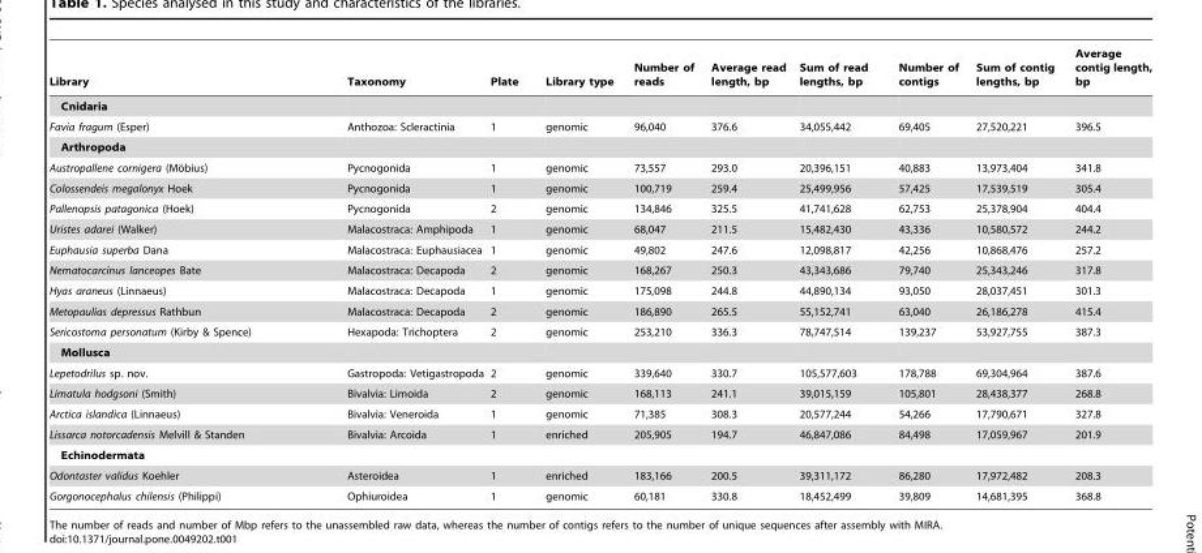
<table><thead><tr><td>Library</td><td>Taxonomy</td><td>Plate</td><td>Library type</td><td>Number of reads</td><td>Average read length, bp</td><td>Sum of read lengths, bp</td><td>Number of contigs</td><td>Sum of contig lengths, bp</td><td>Average contig length, bp</td></tr></thead><tbody><tr><td colspan="10">Cnidaria</td></tr><tr><td>Favia fragum (Esper)</td><td>Anthozoa: Scleractinia</td><td>1</td><td>genomic</td><td>96,040</td><td>376.6</td><td>34,055,442</td><td>69,405</td><td>27,520,221</td><td>396.5</td></tr><tr><td colspan="10">Arthropoda</td></tr><tr><td>Austropallene cornigera (Mo¨bius)</td><td>Pycnogonida</td><td>1</td><td>genomic</td><td>73,557</td><td>293.0</td><td>20,396,151</td><td>40,883</td><td>13,973,404</td><td>341.8</td></tr><tr><td>Colossendeis megalonyx Hoek</td><td>Pycnogonida</td><td>1</td><td>genomic</td><td>100,719</td><td>259.4</td><td>25,499,956</td><td>57,425</td><td>17,539,519</td><td>305.4</td></tr><tr><td>Pallenopsis patagonica (Hoek)</td><td>Pycnogonida</td><td>2</td><td>genomic</td><td>134,846</td><td>325.5</td><td>41,741,628</td><td>62,753</td><td>25,378,904</td><td>404.4</td></tr><tr><td>Uristes adarei (Walker)</td><td>Malacostraca: Amphipoda</td><td>1</td><td>genomic</td><td>68,047</td><td>211.5</td><td>15,482,430</td><td>43,336</td><td>10,580,572</td><td>244.2</td></tr><tr><td>Euphausia superba Dana</td><td>Malacostraca: Euphausiacea</td><td>1</td><td>genomic</td><td>49,802</td><td>247.6</td><td>12,098,817</td><td>42,256</td><td>10,868,476</td><td>257.2</td></tr><tr><td>Nematocarcinus lanceopes Bate</td><td>Malacostraca: Decapoda</td><td>2</td><td>genomic</td><td>168,267</td><td>250.3</td><td>43,343,686</td><td>79,740</td><td>25,343,246</td><td>317.8</td></tr><tr><td>Hyas araneus (Linnaeus)</td><td>Malacostraca: Decapoda</td><td>1</td><td>genomic</td><td>175,098</td><td>244.8</td><td>44,890,134</td><td>93,050</td><td>28,037,451</td><td>301.3</td></tr><tr><td>Metopaulias depressus Rathbun</td><td>Malacostraca: Decapoda</td><td>2</td><td>genomic</td><td>186,890</td><td>265.5</td><td>55,152,741</td><td>63,040</td><td>26,186,278</td><td>415.4</td></tr><tr><td>Sericostoma personatum (Kirby &amp; Spence)</td><td>Hexapoda: Trichoptera</td><td>2</td><td>genomic</td><td>253,210</td><td>336.3</td><td>78,747,514</td><td>139,237</td><td>53,927,755</td><td>387.3</td></tr><tr><td colspan="10">Mollusca</td></tr><tr><td>Lepetodrilus sp. nov.</td><td>Gastropoda: Vetigastropoda</td><td>2</td><td>genomic</td><td>339,640</td><td>330.7</td><td>105,577,603</td><td>178,788</td><td>69,304,964</td><td>387.6</td></tr><tr><td>Limatula hodgsoni (Smith)</td><td>Bivalvia: Limoida</td><td>2</td><td>genomic</td><td>168,113</td><td>241.1</td><td>39,015,159</td><td>105,801</td><td>28,438,377</td><td>268.8</td></tr><tr><td>Arctica islandica (Linnaeus)</td><td>Bivalvia: Veneroida</td><td>1</td><td>genomic</td><td>71,385</td><td>308.3</td><td>20,577,244</td><td>54,266</td><td>17,790,671</td><td>327.8</td></tr><tr><td>Lissarca notorcadensis Melvill &amp; Standen</td><td>Bivalvia: Arcoida</td><td>1</td><td>enriched</td><td>205,905</td><td>194.7</td><td>46,847,086</td><td>84,498</td><td>17,059,967</td><td>201.9</td></tr><tr><td colspan="10">Echinodermata</td></tr><tr><td>Odontaster validus Koehler</td><td>Asteroidea</td><td>1</td><td>enriched</td><td>183,166</td><td>200.5</td><td>39,311,172</td><td>86,280</td><td>17,972,482</td><td>208.3</td></tr><tr><td>Gorgonocephalus chilensis (Philippi)</td><td>Ophiuroidea</td><td>1</td><td>genomic</td><td>60,181</td><td>330.8</td><td>18,452,499</td><td>39,809</td><td>14,681,395</td><td>368.8</td></tr></tbody></table>